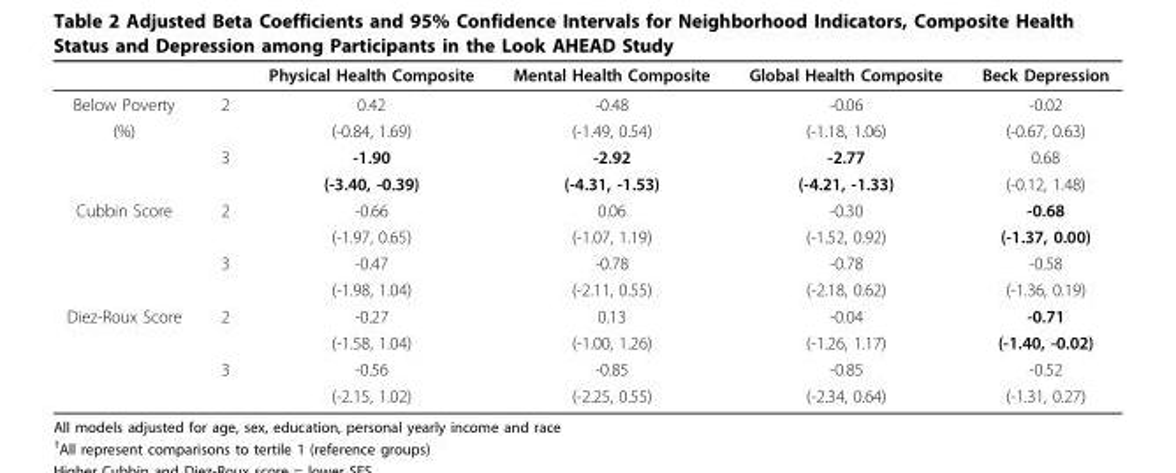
<table><thead><tr><td></td><td></td><td>Physical Health Composite</td><td>Mental Health Composite</td><td>Global Health Composite</td><td>Beck Depression</td></tr></thead><tbody><tr><td>Below Poverty</td><td>2</td><td>0.42</td><td>-0.48</td><td>-0.06</td><td>-0.02</td></tr><tr><td rowspan="3">(%)</td><td></td><td>(-0.84, 1.69)</td><td>(-1.49, 0.54)</td><td>(-1.18, 1.06)</td><td>(-0.67, 0.63)</td></tr><tr><td>3</td><td>-1.90</td><td>-2.92</td><td>-2.77</td><td>0.68</td></tr><tr><td></td><td>(-3.40, -0.39)</td><td>(-4.31, -1.53)</td><td>(-4.21, -1.33)</td><td>(-0.12, 1.48)</td></tr><tr><td rowspan="4">Cubbin Score</td><td>2</td><td>-0.66</td><td>0.06</td><td>-0.30</td><td>-0.68</td></tr><tr><td></td><td>(-1.97, 0.65)</td><td>(-1.07, 1.19)</td><td>(-1.52, 0.92)</td><td>(-1.37, 0.00)</td></tr><tr><td>3</td><td>-0.47</td><td>-0.78</td><td>-0.78</td><td>-0.58</td></tr><tr><td></td><td>(-1.98, 1.04)</td><td>(-2.11, 0.55)</td><td>(-2.18, 0.62)</td><td>(-1.36, 0.19)</td></tr><tr><td rowspan="4">Diez-Roux Score</td><td>2</td><td>-0.27</td><td>0.13</td><td>-0.04</td><td>-0.71</td></tr><tr><td></td><td>(-1.58, 1.04)</td><td>(-1.00, 1.26)</td><td>(-1.26, 1.17)</td><td>(-1.40, -0.02)</td></tr><tr><td>3</td><td>-0.56</td><td>-0.85</td><td>-0.85</td><td>-0.52</td></tr><tr><td></td><td>(-2.15, 1.02)</td><td>(-2.25, 0.55)</td><td>(-2.34, 0.64)</td><td>(-1.31, 0.27)</td></tr></tbody></table>